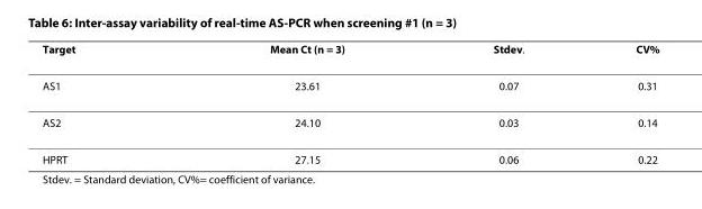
<table><thead><tr><td>Target</td><td>Mean Ct (n = 3)</td><td>Stdev.</td><td>CV%</td></tr></thead><tbody><tr><td>AS1</td><td>23.61</td><td>0.07</td><td>0.31</td></tr><tr><td>AS2</td><td>24.10</td><td>0.03</td><td>0.14</td></tr><tr><td>HPRT</td><td>27.15</td><td>0.06</td><td>0.22</td></tr></tbody></table>